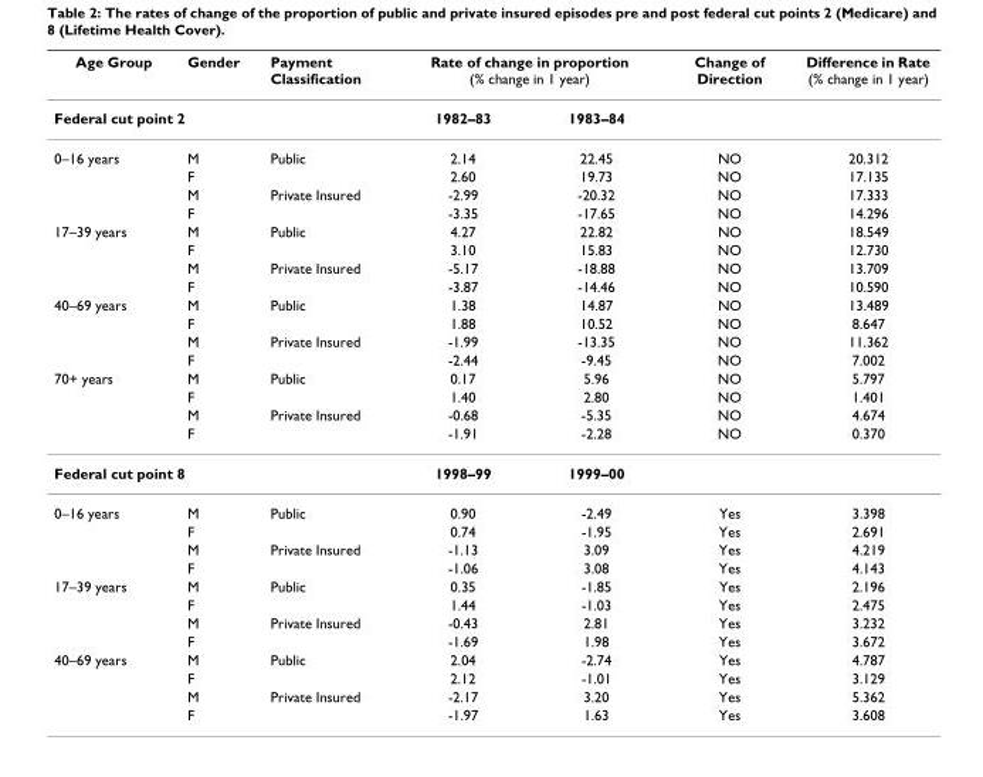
<table><thead><tr><td>Age Group</td><td>Gender</td><td>Payment Classification</td><td colspan="2">Rate of change in proportion (% change in 1 year)</td><td rowspan="2">Change of Direction</td><td rowspan="2">Difference in Rate (% change in 1 year)</td></tr><tr><td colspan="3">Federal cut point 2</td><td>1982–83</td><td>1983–84</td></tr></thead><tbody><tr><td rowspan="4">0–16 years</td><td>M</td><td>Public</td><td>2.14</td><td>22.45</td><td>NO</td><td>20.312</td></tr><tr><td>F</td><td></td><td>2.60</td><td>19.73</td><td>NO</td><td>17.135</td></tr><tr><td>M</td><td>Private Insured</td><td>-2.99</td><td>-20.32</td><td>NO</td><td>17.333</td></tr><tr><td>F</td><td></td><td>-3.35</td><td>-17.65</td><td>NO</td><td>14.296</td></tr><tr><td rowspan="4">17–39 years</td><td>M</td><td>Public</td><td>4.27</td><td>22.82</td><td>NO</td><td>18.549</td></tr><tr><td>F</td><td></td><td>3.10</td><td>15.83</td><td>NO</td><td>12.730</td></tr><tr><td>M</td><td>Private Insured</td><td>-5.17</td><td>-18.88</td><td>NO</td><td>13.709</td></tr><tr><td>F</td><td></td><td>-3.87</td><td>-14.46</td><td>NO</td><td>10.590</td></tr><tr><td rowspan="4">40–69 years</td><td>M</td><td>Public</td><td>1.38</td><td>14.87</td><td>NO</td><td>13.489</td></tr><tr><td>F</td><td></td><td>1.88</td><td>10.52</td><td>NO</td><td>8.647</td></tr><tr><td>M</td><td>Private Insured</td><td>-1.99</td><td>-13.35</td><td>NO</td><td>11.362</td></tr><tr><td>F</td><td></td><td>-2.44</td><td>-9.45</td><td>NO</td><td>7.002</td></tr><tr><td rowspan="4">70+ years</td><td>M</td><td>Public</td><td>0.17</td><td>5.96</td><td>NO</td><td>5.797</td></tr><tr><td>F</td><td></td><td>1.40</td><td>2.80</td><td>NO</td><td>1.401</td></tr><tr><td>M</td><td>Private Insured</td><td>-0.68</td><td>-5.35</td><td>NO</td><td>4.674</td></tr><tr><td>F</td><td></td><td>-1.91</td><td>-2.28</td><td>NO</td><td>0.370</td></tr><tr><td colspan="3">Federal cut point 8</td><td>1998–99</td><td>1999–00</td><td></td><td></td></tr><tr><td rowspan="4">0–16 years</td><td>M</td><td>Public</td><td>0.90</td><td>-2.49</td><td>Yes</td><td>3.398</td></tr><tr><td>F</td><td></td><td>0.74</td><td>-1.95</td><td>Yes</td><td>2.691</td></tr><tr><td>M</td><td>Private Insured</td><td>-1.13</td><td>3.09</td><td>Yes</td><td>4.219</td></tr><tr><td>F</td><td></td><td>-1.06</td><td>3.08</td><td>Yes</td><td>4.143</td></tr><tr><td rowspan="4">17–39 years</td><td>M</td><td>Public</td><td>0.35</td><td>-1.85</td><td>Yes</td><td>2.196</td></tr><tr><td>F</td><td></td><td>1.44</td><td>-1.03</td><td>Yes</td><td>2.475</td></tr><tr><td>M</td><td>Private Insured</td><td>-0.43</td><td>2.81</td><td>Yes</td><td>3.232</td></tr><tr><td>F</td><td></td><td>-1.69</td><td>1.98</td><td>Yes</td><td>3.672</td></tr><tr><td rowspan="4">40–69 years</td><td>M</td><td>Public</td><td>2.04</td><td>-2.74</td><td>Yes</td><td>4.787</td></tr><tr><td>F</td><td></td><td>2.12</td><td>-1.01</td><td>Yes</td><td>3.129</td></tr><tr><td>M</td><td>Private Insured</td><td>-2.17</td><td>3.20</td><td>Yes</td><td>5.362</td></tr><tr><td>F</td><td></td><td>-1.97</td><td>1.63</td><td>Yes</td><td>3.608</td></tr></tbody></table>